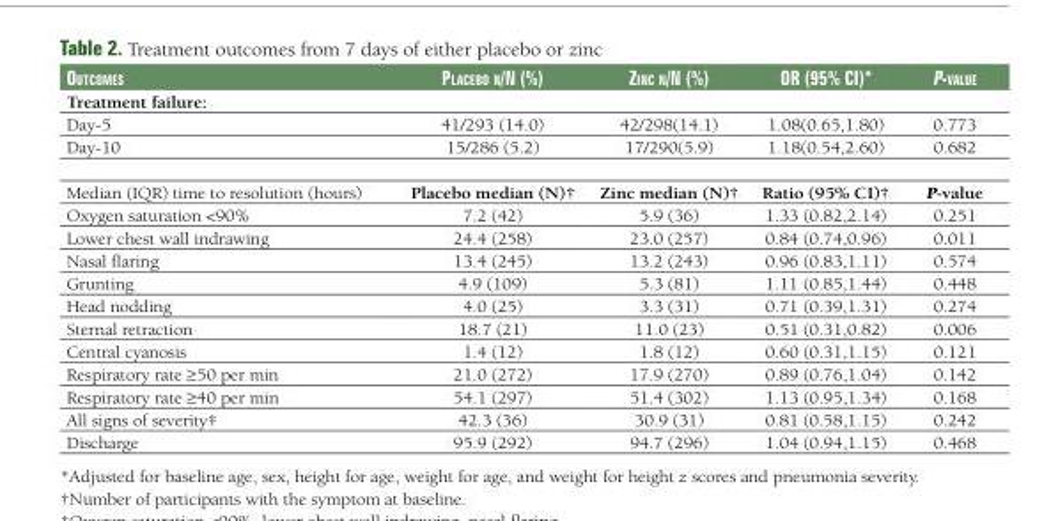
<table><thead><tr><td>outComes</td><td>PlaCebo n/n (%)</td><td>ZinC n/n (%)</td><td>or (95% Ci)*</td><td>P-value</td></tr></thead><tbody><tr><td colspan="5">Treatment failure:</td></tr><tr><td>Day-5</td><td>41/293 (14.0)</td><td>42/298(14.1)</td><td>1.08(0.65,1.80)</td><td>0.773</td></tr><tr><td>Day-10</td><td>15/286 (5.2)</td><td>17/290(5.9)</td><td>1.18(0.54,2.60)</td><td>0.682</td></tr><tr><td>Median (IQR) time to resolution (hours)</td><td>Placebo median (N)†</td><td>Zinc median (N)†</td><td>Ratio (95% CI)†</td><td>P-value</td></tr><tr><td>Oxygen saturation &lt;90%</td><td>7.2 (42)</td><td>5.9 (36)</td><td>1.33 (0.82,2.14)</td><td>0.251</td></tr><tr><td>Lower chest wall indrawing</td><td>24.4 (258)</td><td>23.0 (257)</td><td>0.84 (0.74,0.96)</td><td>0.011</td></tr><tr><td>Nasal flaring</td><td>13.4 (245)</td><td>13.2 (243)</td><td>0.96 (0.83,1.11)</td><td>0.574</td></tr><tr><td>Grunting</td><td>4.9 (109)</td><td>5.3 (81)</td><td>1.11 (0.85,1.44)</td><td>0.448</td></tr><tr><td>Head nodding</td><td>4.0 (25)</td><td>3.3 (31)</td><td>0.71 (0.39,1.31)</td><td>0.274</td></tr><tr><td>Sternal retraction</td><td>18.7 (21)</td><td>11.0 (23)</td><td>0.51 (0.31,0.82)</td><td>0.006</td></tr><tr><td>Central cyanosis</td><td>1.4 (12)</td><td>1.8 (12)</td><td>0.60 (0.31,1.15)</td><td>0.121</td></tr><tr><td>Respiratory rate ≥50 per min</td><td>21.0 (272)</td><td>17.9 (270)</td><td>0.89 (0.76,1.04)</td><td>0.142</td></tr><tr><td>Respiratory rate ≥40 per min</td><td>54.1 (297)</td><td>51.4 (302)</td><td>1.13 (0.95,1.34)</td><td>0.168</td></tr><tr><td>All signs of severity‡</td><td>42.3 (36)</td><td>30.9 (31)</td><td>0.81 (0.58,1.15)</td><td>0.242</td></tr><tr><td>Discharge</td><td>95.9 (292)</td><td>94.7 (296)</td><td>1.04 (0.94,1.15)</td><td>0.468</td></tr></tbody></table>